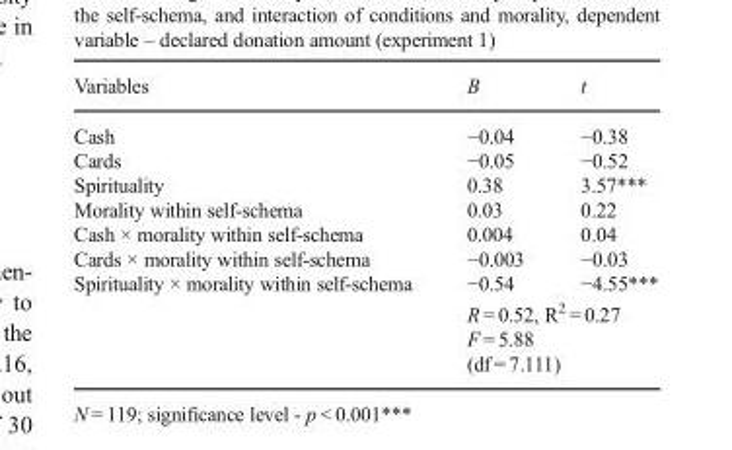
<table><thead><tr><td>Variables</td><td>Β</td><td>t</td></tr></thead><tbody><tr><td rowspan="2">Cash Cards Spirituality Morality within self-schema Cash × morality within self-schema Cards × morality within self-schema Spirituality × morality within self-schema</td><td>−0.04 −0.05 0.38 0.03 0.004 −0.003 −0.54</td><td>−0.38 −0.52 3.57*** 0.22 0.04 −0.03 −4.55***</td></tr><tr><td colspan="2">R = 0.52, R<sup>2</sup> = 0.27 F = 5.88 (df = 7.111)</td></tr></tbody></table>